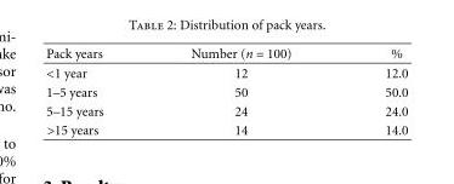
<table><thead><tr><td>Pack years</td><td>Number (n = 100)</td><td>%</td></tr></thead><tbody><tr><td>&lt;1 year</td><td>12</td><td>12.0</td></tr><tr><td>1–5 years</td><td>50</td><td>50.0</td></tr><tr><td>5–15 years</td><td>24</td><td>24.0</td></tr><tr><td>&gt;15 years</td><td>14</td><td>14.0</td></tr></tbody></table>